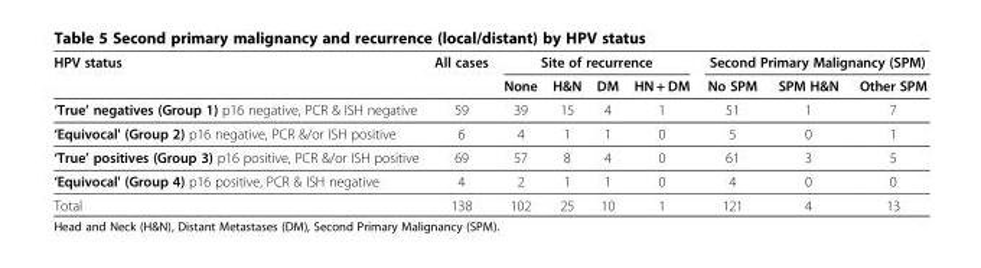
<table><thead><tr><td rowspan="2">HPV status</td><td rowspan="2">All cases</td><td colspan="4">Site of recurrence</td><td colspan="3">Second Primary Malignancy (SPM)</td></tr><tr><td>None</td><td>H&amp;N</td><td>DM</td><td>HN + DM</td><td>No SPM</td><td>SPM H&amp;N</td><td>Other SPM</td></tr></thead><tbody><tr><td>‘True’ negatives (Group 1) p16 negative, PCR &amp; ISH negative</td><td>59</td><td>39</td><td>15</td><td>4</td><td>1</td><td>51</td><td>1</td><td>7</td></tr><tr><td>‘Equivocal&#x27; (Group 2) p16 negative, PCR &amp;/or ISH positive</td><td>6</td><td>4</td><td>1</td><td>1</td><td>0</td><td>5</td><td>0</td><td>1</td></tr><tr><td>‘True’ positives (Group 3) p16 positive, PCR &amp;/or ISH positive</td><td>69</td><td>57</td><td>8</td><td>4</td><td>0</td><td>61</td><td>3</td><td>5</td></tr><tr><td>‘Equivocal&#x27; (Group 4) p16 positive, PCR &amp; ISH negative</td><td>4</td><td>2</td><td>1</td><td>1</td><td>0</td><td>4</td><td>0</td><td>0</td></tr><tr><td>Total</td><td>138</td><td>102</td><td>25</td><td>10</td><td>1</td><td>121</td><td>4</td><td>13</td></tr></tbody></table>